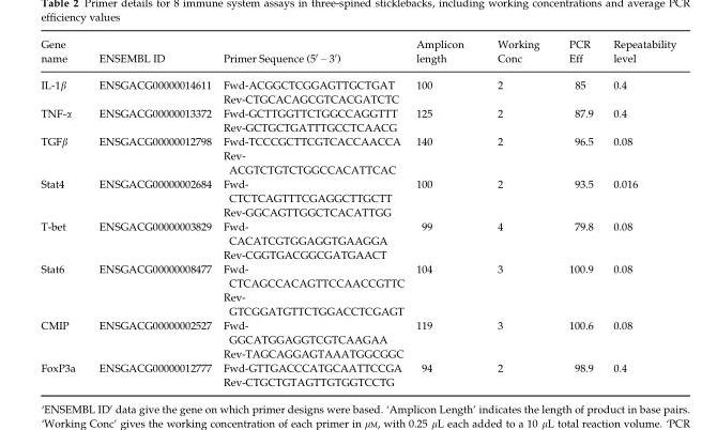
<table><thead><tr><td>Gene name</td><td>ENSEMBL ID</td><td>Primer Sequence (5′ – 3′)</td><td>Amplicon length</td><td>Working Conc</td><td>PCR Eff</td><td>Repeatability level</td></tr></thead><tbody><tr><td rowspan="2">IL-1β</td><td rowspan="2">ENSGACG00000014611</td><td>Fwd-ACGGCTCGGAGTTGCTGAT</td><td>100</td><td>2</td><td>85</td><td>0.4</td></tr><tr><td>Rev-CTGCACAGCGTCACGATCTC</td><td></td><td></td><td></td><td></td></tr><tr><td rowspan="2">TNF-α</td><td rowspan="2">ENSGACG00000013372</td><td>Fwd-GCTTGGTTCTGGCCAGGTTT</td><td>125</td><td>2</td><td>87.9</td><td>0.4</td></tr><tr><td>Rev-GCTGCTGATTTGCCTCAACG</td><td></td><td></td><td></td><td></td></tr><tr><td rowspan="2">TGFβ</td><td rowspan="2">ENSGACG00000012798</td><td>Fwd-TCCCGCTTCGTCACCAACCA</td><td>140</td><td>2</td><td>96.5</td><td>0.08</td></tr><tr><td>Rev- ACGTCTGTCTGGCCACATTCAC</td><td></td><td></td><td></td><td></td></tr><tr><td rowspan="2">Stat4</td><td rowspan="2">ENSGACG00000002684</td><td>Fwd- CTCTCAGTTTCGAGGCTTGCTT</td><td>100</td><td>2</td><td>93.5</td><td>0.016</td></tr><tr><td>Rev-GGCAGTTGGCTCACATTGG</td><td></td><td></td><td></td><td></td></tr><tr><td rowspan="2">T-bet</td><td rowspan="2">ENSGACG00000003829</td><td>Fwd- CACATCGTGGAGGTGAAGGA</td><td>99</td><td>4</td><td>79.8</td><td>0.08</td></tr><tr><td>Rev-CGGTGACGGCGATGAACT</td><td></td><td></td><td></td><td></td></tr><tr><td rowspan="2">Stat6</td><td rowspan="2">ENSGACG00000008477</td><td>Fwd- CTCAGCCACAGTTCCAACCGTTC</td><td>104</td><td>3</td><td>100.9</td><td>0.08</td></tr><tr><td>Rev- GTCGGATGTTCTGGACCTCGAGT</td><td></td><td></td><td></td><td></td></tr><tr><td rowspan="2">CMIP</td><td rowspan="2">ENSGACG00000002527</td><td>Fwd- GGCATGGAGGTCGTCAAGAA</td><td>119</td><td>3</td><td>100.6</td><td>0.08</td></tr><tr><td>Rev-TAGCAGGAGTAAATGGCGGC</td><td></td><td></td><td></td><td></td></tr><tr><td rowspan="2">FoxP3a</td><td rowspan="2">ENSGACG00000012777</td><td>Fwd-GTTGACCCATGCAATTCCGA</td><td>94</td><td>2</td><td>98.9</td><td>0.4</td></tr><tr><td>Rev-CTGCTGTAGTTGTGGTCCTG</td><td></td><td></td><td></td><td></td></tr></tbody></table>